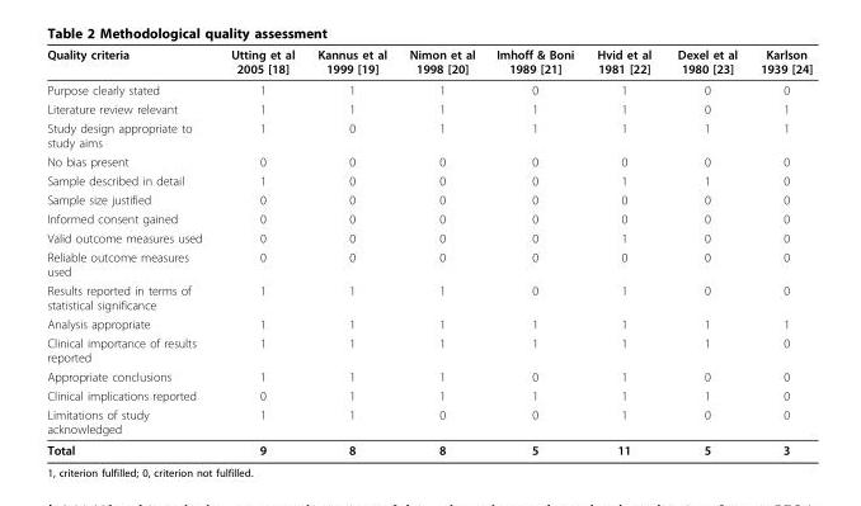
<table><thead><tr><td>Quality criteria</td><td>Utting et al 2005 [18]</td><td>Kannus et al 1999 [19]</td><td>Nimon et al 1998 [20]</td><td>Imhoff &amp; Boni 1989 [21]</td><td>Hvid et al 1981 [22]</td><td>Dexel et al 1980 [23]</td><td>Karlson 1939 [24]</td></tr></thead><tbody><tr><td>Purpose clearly stated</td><td>1</td><td>1</td><td>1</td><td>0</td><td>1</td><td>0</td><td>0</td></tr><tr><td>Literature review relevant</td><td>1</td><td>1</td><td>1</td><td>1</td><td>1</td><td>0</td><td>1</td></tr><tr><td>Study design appropriate to study aims</td><td>1</td><td>0</td><td>1</td><td>1</td><td>1</td><td>1</td><td>1</td></tr><tr><td>No bias present</td><td>0</td><td>0</td><td>0</td><td>0</td><td>0</td><td>0</td><td>0</td></tr><tr><td>Sample described in detail</td><td>1</td><td>0</td><td>0</td><td>0</td><td>1</td><td>1</td><td>0</td></tr><tr><td>Sample size justified</td><td>0</td><td>0</td><td>0</td><td>0</td><td>0</td><td>0</td><td>0</td></tr><tr><td>Informed consent gained</td><td>0</td><td>0</td><td>0</td><td>0</td><td>0</td><td>0</td><td>0</td></tr><tr><td>Valid outcome measures used</td><td>0</td><td>0</td><td>0</td><td>0</td><td>1</td><td>0</td><td>0</td></tr><tr><td>Reliable outcome measures used</td><td>0</td><td>0</td><td>0</td><td>0</td><td>0</td><td>0</td><td>0</td></tr><tr><td>Results reported in terms of statistical significance</td><td>1</td><td>1</td><td>1</td><td>0</td><td>1</td><td>0</td><td>0</td></tr><tr><td>Analysis appropriate</td><td>1</td><td>1</td><td>1</td><td>1</td><td>1</td><td>1</td><td>1</td></tr><tr><td>Clinical importance of results reported</td><td>1</td><td>1</td><td>1</td><td>1</td><td>1</td><td>1</td><td>0</td></tr><tr><td>Appropriate conclusions</td><td>1</td><td>1</td><td>1</td><td>0</td><td>1</td><td>0</td><td>0</td></tr><tr><td>Clinical implications reported</td><td>0</td><td>1</td><td>1</td><td>1</td><td>1</td><td>1</td><td>0</td></tr><tr><td>Limitations of study acknowledged</td><td>1</td><td>1</td><td>0</td><td>0</td><td>1</td><td>0</td><td>0</td></tr><tr><td>Total</td><td>9</td><td>8</td><td>8</td><td>5</td><td>11</td><td>5</td><td>3</td></tr></tbody></table>